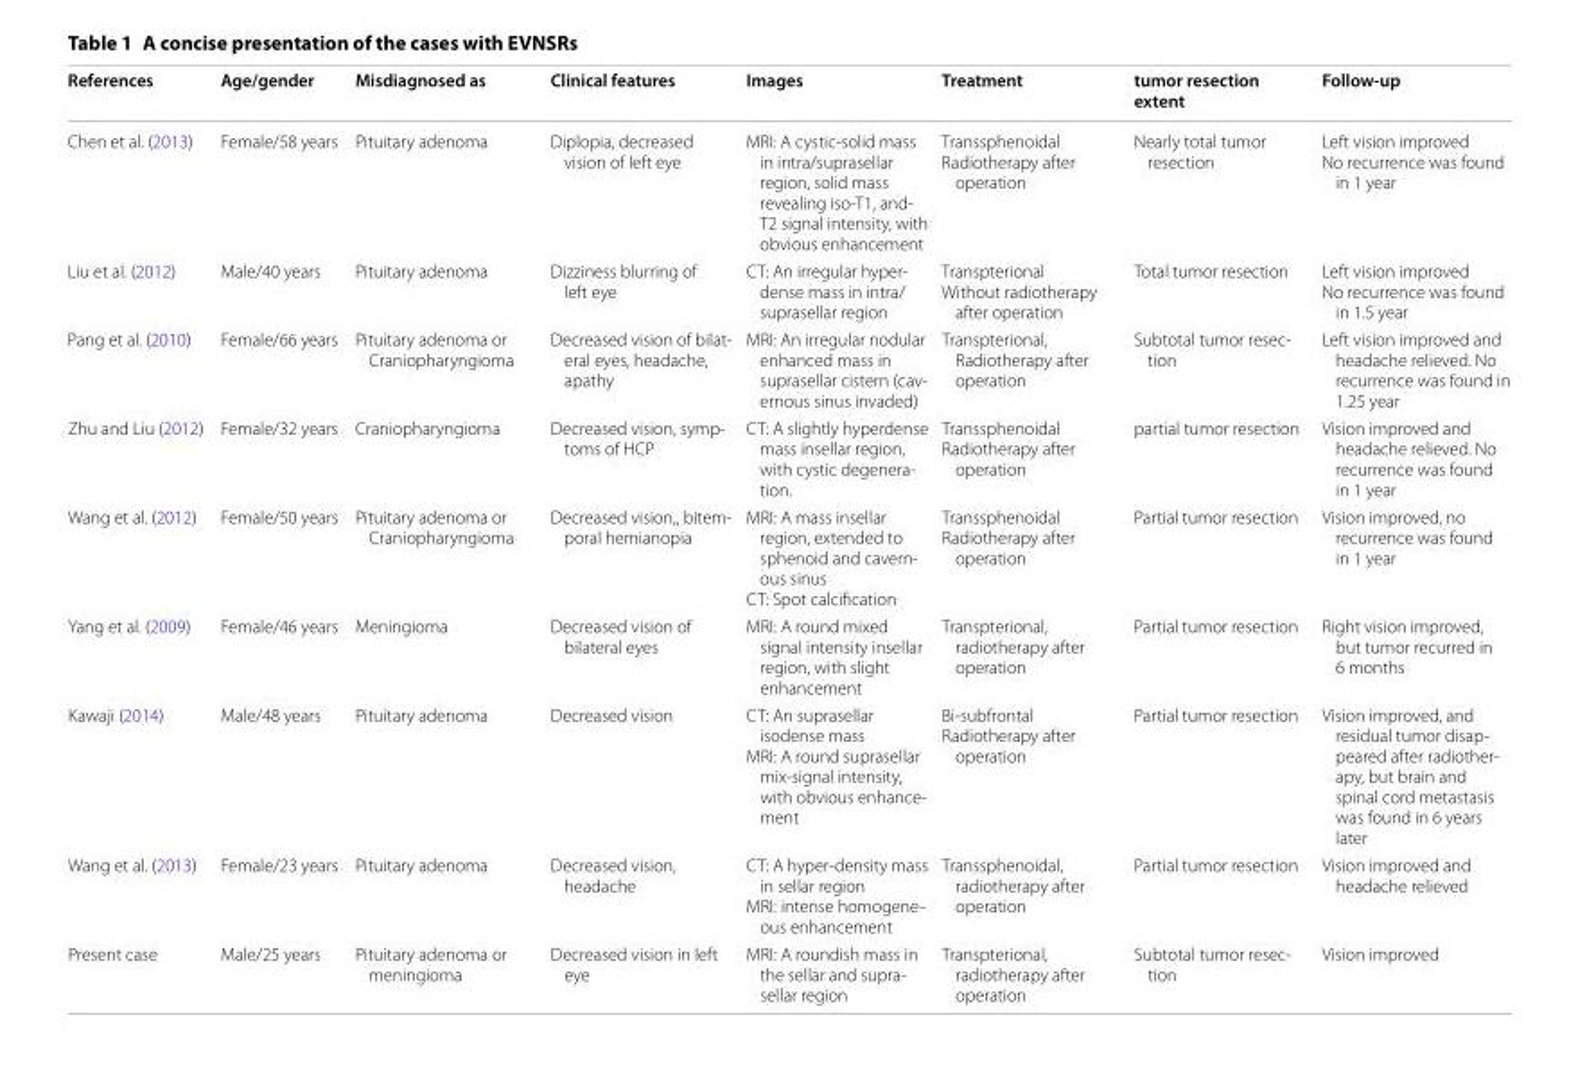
<table><thead><tr><td>References</td><td>Age/gender</td><td>Misdiagnosed as</td><td>Clinical features</td><td>Images</td><td>Treatment</td><td>tumor resection extent</td><td>Follow-up</td></tr></thead><tbody><tr><td>Chen et al. (2013)</td><td>Female/58 years</td><td>Pituitary adenoma</td><td>Diplopia, decreased vision of left eye</td><td>MRI: A cystic‑solid mass in intra/suprasellar region, solid mass revealing iso‑T1, and‑ T2 signal intensity, with obvious enhancement</td><td>Transsphenoidal Radiotherapy after operation</td><td>Nearly total tumor resection</td><td>Left vision improved No recurrence was found in 1 year</td></tr><tr><td>Liu et al. (2012)</td><td>Male/40 years</td><td>Pituitary adenoma</td><td>Dizziness blurring of left eye</td><td>CT: An irregular hyper‑ dense mass in intra/ suprasellar region</td><td>Transpterional Without radiotherapy after operation</td><td>Total tumor resection</td><td>Left vision improved No recurrence was found in 1.5 year</td></tr><tr><td>Pang et al. (2010)</td><td>Female/66 years</td><td>Pituitary adenoma or Craniopharyngioma</td><td>Decreased vision of bilat‑ eral eyes, headache, apathy</td><td>MRI: An irregular nodular enhanced mass in suprasellar cistern (cav‑ ernous sinus invaded)</td><td>Transpterional, Radiotherapy after operation</td><td>Subtotal tumor resec‑ tion</td><td>Left vision improved and headache relieved. No recurrence was found in 1.25 year</td></tr><tr><td>Zhu and Liu (2012)</td><td>Female/32 years</td><td>Craniopharyngioma</td><td>Decreased vision, symp‑ toms of HCP</td><td>CT: A slightly hyperdense mass insellar region, with cystic degenera‑ tion.</td><td>Transsphenoidal Radiotherapy after operation</td><td>partial tumor resection</td><td>Vision improved and headache relieved. No recurrence was found in 1 year</td></tr><tr><td>Wang et al. (2012)</td><td>Female/50 years</td><td>Pituitary adenoma or Craniopharyngioma</td><td>Decreased vision,, bitem‑ poral hemianopia</td><td>MRI: A mass insellar region, extended to sphenoid and cavern‑ ous sinus CT: Spot calcification</td><td>Transsphenoidal Radiotherapy after operation</td><td>Partial tumor resection</td><td>Vision improved, no recurrence was found in 1 year</td></tr><tr><td>Yang et al. (2009)</td><td>Female/46 years</td><td>Meningioma</td><td>Decreased vision of bilateral eyes</td><td>MRI: A round mixed signal intensity insellar region, with slight enhancement</td><td>Transpterional, radiotherapy after operation</td><td>Partial tumor resection</td><td>Right vision improved, but tumor recurred in 6 months</td></tr><tr><td>Kawaji (2014)</td><td>Male/48 years</td><td>Pituitary adenoma</td><td>Decreased vision</td><td>CT: An suprasellar isodense mass MRI: A round suprasellar mix‑signal intensity, with obvious enhance‑ ment</td><td>Bi‑subfrontal Radiotherapy after operation</td><td>Partial tumor resection</td><td>Vision improved, and residual tumor disap‑ peared after radiother‑ apy, but brain and spinal cord metastasis was found in 6 years later</td></tr><tr><td>Wang et al. (2013)</td><td>Female/23 years</td><td>Pituitary adenoma</td><td>Decreased vision, headache</td><td>CT: A hyper‑density mass in sellar region MRI: intense homogene‑ ous enhancement</td><td>Transsphenoidal, radiotherapy after operation</td><td>Partial tumor resection</td><td>Vision improved and headache relieved</td></tr><tr><td>Present case</td><td>Male/25 years</td><td>Pituitary adenoma or meningioma</td><td>Decreased vision in left eye</td><td>MRI: A roundish mass in the sellar and supra‑ sellar region</td><td>Transpterional, radiotherapy after operation</td><td>Subtotal tumor resec‑ tion</td><td>Vision improved</td></tr></tbody></table>